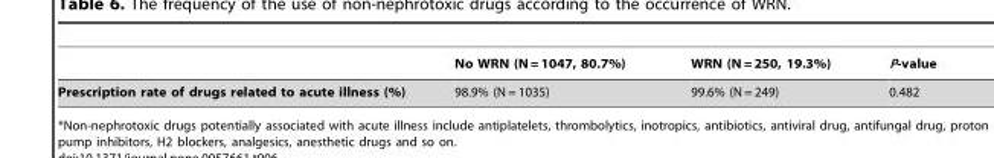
<table><thead><tr><td></td><td>No WRN (N = 1047, 80.7%)</td><td>WRN (N = 250, 19.3%)</td><td>P-value</td></tr></thead><tbody><tr><td>Prescription rate of drugs related to acute illness (%)</td><td>98.9% (N = 1035)</td><td>99.6% (N = 249)</td><td>0.482</td></tr></tbody></table>